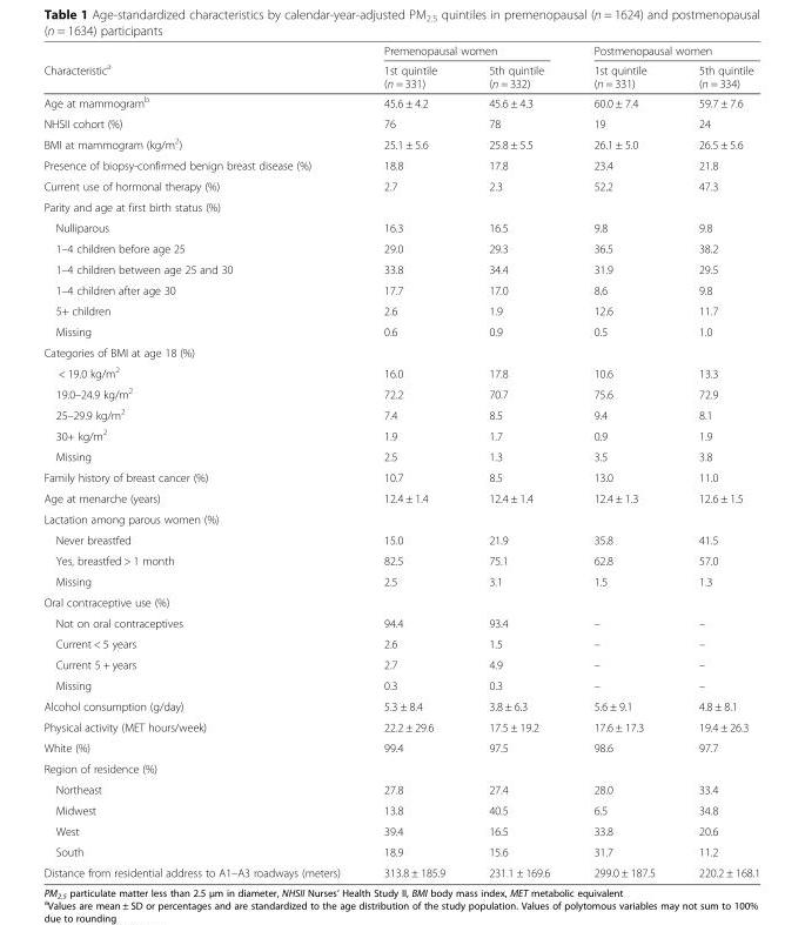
<table><thead><tr><td rowspan="2">Characteristic<sup>a</sup></td><td colspan="2">Premenopausal women</td><td colspan="2">Postmenopausal women</td></tr><tr><td>1st quintile (n = 331)</td><td>5th quintile (n = 332)</td><td>1st quintile (n = 331)</td><td>5th quintile (n = 334)</td></tr></thead><tbody><tr><td>Age at mammogram<sup>b</sup></td><td>45.6 ± 4.2</td><td>45.6 ± 4.3</td><td>60.0 ± 7.4</td><td>59.7 ± 7.6</td></tr><tr><td>NHSII cohort (%)</td><td>76</td><td>78</td><td>19</td><td>24</td></tr><tr><td>BMI at mammogram (kg/m<sup>2</sup>)</td><td>25.1 ± 5.6</td><td>25.8 ± 5.5</td><td>26.1 ± 5.0</td><td>26.5 ± 5.6</td></tr><tr><td>Presence of biopsy-confirmed benign breast disease (%)</td><td>18.8</td><td>17.8</td><td>23.4</td><td>21.8</td></tr><tr><td>Current use of hormonal therapy (%)</td><td>2.7</td><td>2.3</td><td>52.2</td><td>47.3</td></tr><tr><td colspan="5">Parity and age at first birth status (%)</td></tr><tr><td>Nulliparous</td><td>16.3</td><td>16.5</td><td>9.8</td><td>9.8</td></tr><tr><td>1–4 children before age 25</td><td>29.0</td><td>29.3</td><td>36.5</td><td>38.2</td></tr><tr><td>1–4 children between age 25 and 30</td><td>33.8</td><td>34.4</td><td>31.9</td><td>29.5</td></tr><tr><td>1–4 children after age 30</td><td>17.7</td><td>17.0</td><td>8.6</td><td>9.8</td></tr><tr><td>5+ children</td><td>2.6</td><td>1.9</td><td>12.6</td><td>11.7</td></tr><tr><td>Missing</td><td>0.6</td><td>0.9</td><td>0.5</td><td>1.0</td></tr><tr><td colspan="5">Categories of BMI at age 18 (%)</td></tr><tr><td>&lt; 19.0 kg/m<sup>2</sup></td><td>16.0</td><td>17.8</td><td>10.6</td><td>13.3</td></tr><tr><td>19.0–24.9 kg/m<sup>2</sup></td><td>72.2</td><td>70.7</td><td>75.6</td><td>72.9</td></tr><tr><td>25–29.9 kg/m<sup>2</sup></td><td>7.4</td><td>8.5</td><td>9.4</td><td>8.1</td></tr><tr><td>30+ kg/m<sup>2</sup></td><td>1.9</td><td>1.7</td><td>0.9</td><td>1.9</td></tr><tr><td>Missing</td><td>2.5</td><td>1.3</td><td>3.5</td><td>3.8</td></tr><tr><td>Family history of breast cancer (%)</td><td>10.7</td><td>8.5</td><td>13.0</td><td>11.0</td></tr><tr><td>Age at menarche (years)</td><td>12.4 ± 1.4</td><td>12.4 ± 1.4</td><td>12.4 ± 1.3</td><td>12.6 ± 1.5</td></tr><tr><td colspan="5">Lactation among parous women (%)</td></tr><tr><td>Never breastfed</td><td>15.0</td><td>21.9</td><td>35.8</td><td>41.5</td></tr><tr><td>Yes‚ breastfed &gt; 1 month</td><td>82.5</td><td>75.1</td><td>62.8</td><td>57.0</td></tr><tr><td>Missing</td><td>2.5</td><td>3.1</td><td>1.5</td><td>1.3</td></tr><tr><td colspan="5">Oral contraceptive use (%)</td></tr><tr><td>Not on oral contraceptives</td><td>94.4</td><td>93.4</td><td>–</td><td>–</td></tr><tr><td>Current &lt; 5 years</td><td>2.6</td><td>1.5</td><td>–</td><td>–</td></tr><tr><td>Current 5 + years</td><td>2.7</td><td>4.9</td><td>–</td><td>–</td></tr><tr><td>Missing</td><td>0.3</td><td>0.3</td><td>–</td><td>–</td></tr><tr><td>Alcohol consumption (g/day)</td><td>5.3 ± 8.4</td><td>3.8 ± 6.3</td><td>5.6 ± 9.1</td><td>4.8 ± 8.1</td></tr><tr><td>Physical activity (MET hours/week)</td><td>22.2 ± 29.6</td><td>17.5 ± 19.2</td><td>17.6 ± 17.3</td><td>19.4 ± 26.3</td></tr><tr><td>White (%)</td><td>99.4</td><td>97.5</td><td>98.6</td><td>97.7</td></tr><tr><td colspan="5">Region of residence (%)</td></tr><tr><td>Northeast</td><td>27.8</td><td>27.4</td><td>28.0</td><td>33.4</td></tr><tr><td>Midwest</td><td>13.8</td><td>40.5</td><td>6.5</td><td>34.8</td></tr><tr><td>West</td><td>39.4</td><td>16.5</td><td>33.8</td><td>20.6</td></tr><tr><td>South</td><td>18.9</td><td>15.6</td><td>31.7</td><td>11.2</td></tr><tr><td>Distance from residential address to A1–A3 roadways (meters)</td><td>313.8 ± 185.9</td><td>231.1 ± 169.6</td><td>299.0 ± 187.5</td><td>220.2 ± 168.1</td></tr></tbody></table>